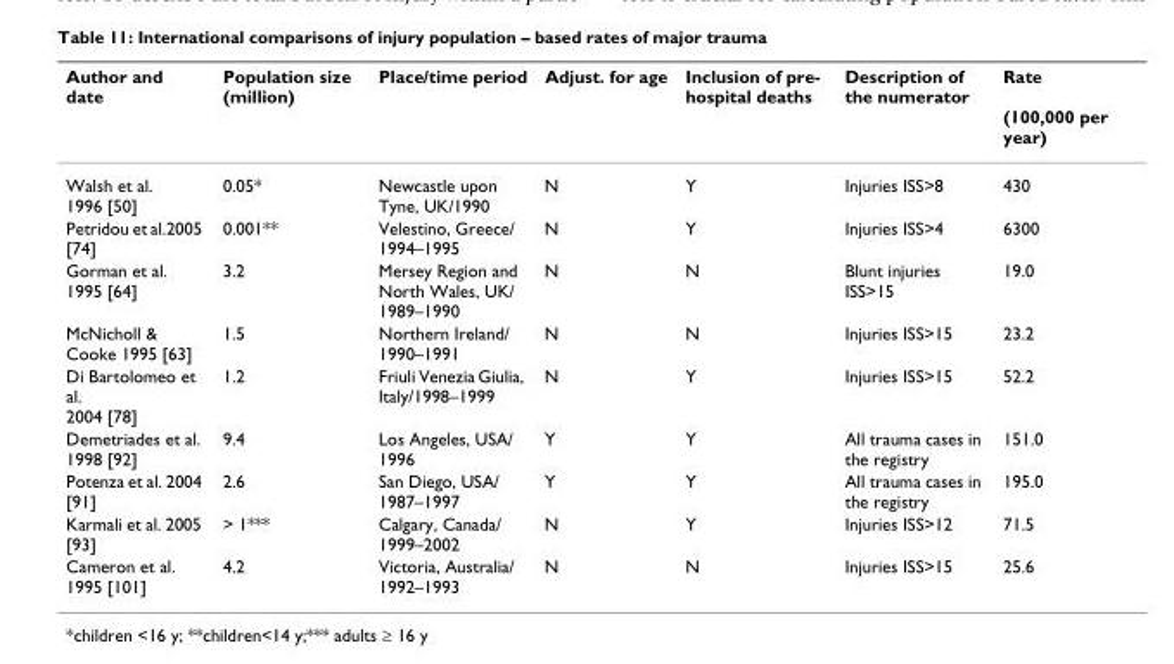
<table><thead><tr><td>Author and date</td><td>Population size (million)</td><td>Place/time period</td><td>Adjust. for age</td><td>Inclusion of pre- hospital deaths</td><td>Description of the numerator</td><td>Rate (100,000 per year)</td></tr></thead><tbody><tr><td>Walsh et al. 1996 [50]</td><td>0.05*</td><td>Newcastle upon Tyne, UK/1990</td><td>N</td><td>Y</td><td>Injuries ISS&gt;8</td><td>430</td></tr><tr><td>Petridou et al.2005 [74]</td><td>0.001**</td><td>Velestino, Greece/ 1994–1995</td><td>N</td><td>Y</td><td>Injuries ISS&gt;4</td><td>6300</td></tr><tr><td>Gorman et al. 1995 [64]</td><td>3.2</td><td>Mersey Region and North Wales, UK/ 1989–1990</td><td>N</td><td>N</td><td>Blunt injuries ISS&gt;15</td><td>19.0</td></tr><tr><td>McNicholl &amp; Cooke 1995 [63]</td><td>1.5</td><td>Northern Ireland/ 1990–1991</td><td>N</td><td>N</td><td>Injuries ISS&gt;15</td><td>23.2</td></tr><tr><td>Di Bartolomeo et al. 2004 [78]</td><td>1.2</td><td>Friuli Venezia Giulia, Italy/1998–1999</td><td>N</td><td>Y</td><td>Injuries ISS&gt;15</td><td>52.2</td></tr><tr><td>Demetriades et al. 1998 [92]</td><td>9.4</td><td>Los Angeles, USA/ 1996</td><td>Y</td><td>Y</td><td>All trauma cases in the registry</td><td>151.0</td></tr><tr><td>Potenza et al. 2004 [91]</td><td>2.6</td><td>San Diego, USA/ 1987–1997</td><td>Y</td><td>Y</td><td>All trauma cases in the registry</td><td>195.0</td></tr><tr><td>Karmali et al. 2005 [93]</td><td>&gt; 1***</td><td>Calgary, Canada/ 1999–2002</td><td>N</td><td>Y</td><td>Injuries ISS&gt;12</td><td>71.5</td></tr><tr><td>Cameron et al. 1995 [101]</td><td>4.2</td><td>Victoria, Australia/ 1992–1993</td><td>N</td><td>N</td><td>Injuries ISS&gt;15</td><td>25.6</td></tr></tbody></table>